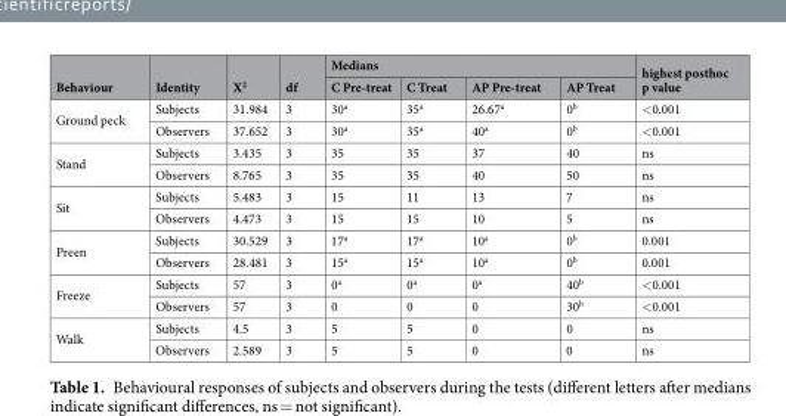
<table><thead><tr><td rowspan="2">Behaviour</td><td rowspan="2">Identity</td><td rowspan="2">X<sup>2</sup></td><td rowspan="2">df</td><td colspan="4">Medians</td><td rowspan="2">highest posthoc p value</td></tr><tr><td>C Pre-treat</td><td>C Treat</td><td>AP Pre-treat</td><td>AP Treat</td></tr></thead><tbody><tr><td rowspan="2">Ground peck</td><td>Subjects</td><td>31.984</td><td>3</td><td>30<sup>a</sup></td><td>35<sup>a</sup></td><td>26.67<sup>a</sup></td><td>0<sup>b</sup></td><td>&lt;0.001</td></tr><tr><td>Observers</td><td>37.652</td><td>3</td><td>30<sup>a</sup></td><td>35<sup>a</sup></td><td>40<sup>a</sup></td><td>0<sup>b</sup></td><td>&lt;0.001</td></tr><tr><td rowspan="2">Stand</td><td>Subjects</td><td>3.435</td><td>3</td><td>35</td><td>35</td><td>37</td><td>40</td><td>ns</td></tr><tr><td>Observers</td><td>8.765</td><td>3</td><td>35</td><td>35</td><td>40</td><td>50</td><td>ns</td></tr><tr><td rowspan="2">Sit</td><td>Subjects</td><td>5.483</td><td>3</td><td>15</td><td>11</td><td>13</td><td>7</td><td>ns</td></tr><tr><td>Observers</td><td>4.473</td><td>3</td><td>15</td><td>15</td><td>10</td><td>5</td><td>ns</td></tr><tr><td rowspan="2">Preen</td><td>Subjects</td><td>30.529</td><td>3</td><td>17<sup>a</sup></td><td>17<sup>a</sup></td><td>10<sup>a</sup></td><td>0<sup>b</sup></td><td>0.001</td></tr><tr><td>Observers</td><td>28.481</td><td>3</td><td>15<sup>a</sup></td><td>15<sup>a</sup></td><td>10<sup>a</sup></td><td>0<sup>b</sup></td><td>0.001</td></tr><tr><td rowspan="2">Freeze</td><td>Subjects</td><td>57</td><td>3</td><td>0<sup>a</sup></td><td>0<sup>a</sup></td><td>0<sup>a</sup></td><td>40<sup>b</sup></td><td>&lt;0.001</td></tr><tr><td>Observers</td><td>57</td><td>3</td><td>0</td><td>0</td><td>0</td><td>30<sup>b</sup></td><td>&lt;0.001</td></tr><tr><td rowspan="2">Walk</td><td>Subjects</td><td>4.5</td><td>3</td><td>5</td><td>5</td><td>0</td><td>0</td><td>ns</td></tr><tr><td>Observers</td><td>2.589</td><td>3</td><td>5</td><td>5</td><td>0</td><td>0</td><td>ns</td></tr></tbody></table>